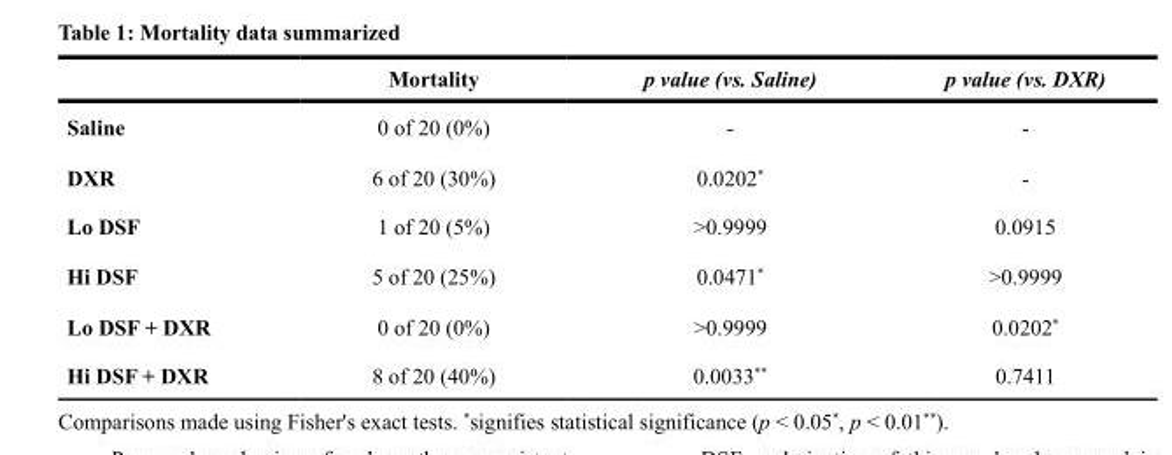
<table><thead><tr><td></td><td>Mortality</td><td>p value (vs. Saline)</td><td>p value (vs. DXR)</td></tr></thead><tbody><tr><td>Saline</td><td>0 of 20 (0%)</td><td>-</td><td>-</td></tr><tr><td>DXR</td><td>6 of 20 (30%)</td><td>0.0202*</td><td>-</td></tr><tr><td>Lo DSF</td><td>1 of 20 (5%)</td><td>&gt;0.9999</td><td>0.0915</td></tr><tr><td>Hi DSF</td><td>5 of 20 (25%)</td><td>0.0471*</td><td>&gt;0.9999</td></tr><tr><td>Lo DSF + DXR</td><td>0 of 20 (0%)</td><td>&gt;0.9999</td><td>0.0202*</td></tr><tr><td>Hi DSF + DXR</td><td>8 of 20 (40%)</td><td>0.0033**</td><td>0.7411</td></tr></tbody></table>